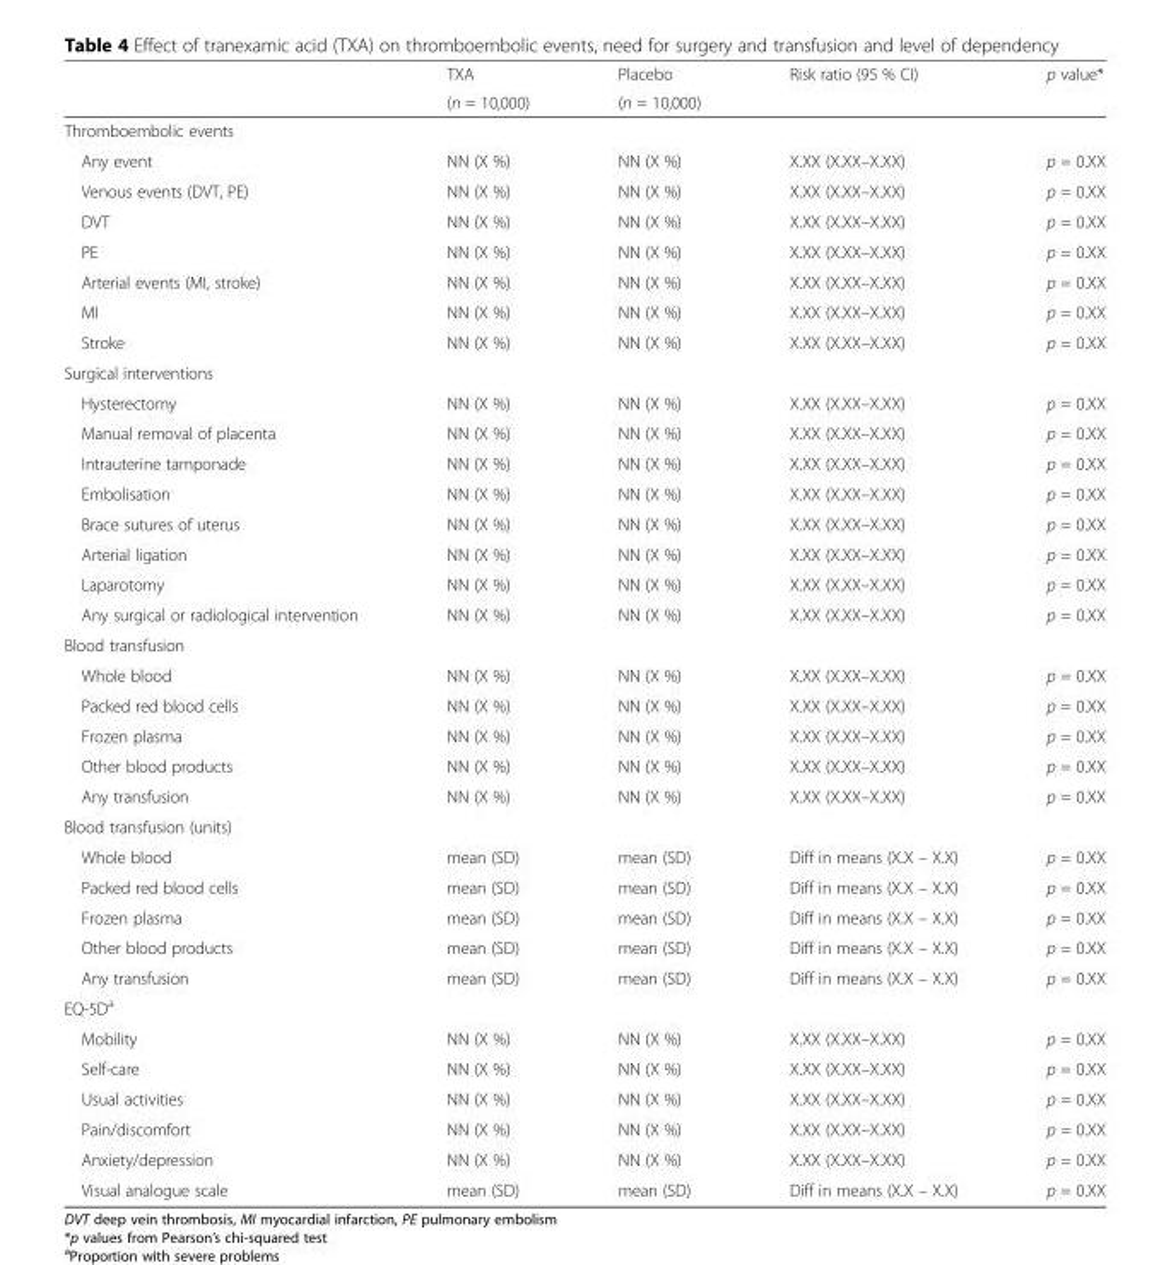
<table><thead><tr><td rowspan="2"></td><td rowspan="2">TXA (n = 10,000)</td><td rowspan="2">Placebo (n = 10,000)</td><td rowspan="2">Risk ratio (95 % CI)</td><td rowspan="2">p value*</td></tr><tr></tr></thead><tbody><tr><td colspan="5">Thromboembolic events</td></tr><tr><td>Any event</td><td>NN (X %)</td><td>NN (X %)</td><td>X.XX (X.XX–X.XX)</td><td>p = 0.XX</td></tr><tr><td>Venous events (DVT, PE)</td><td>NN (X %)</td><td>NN (X %)</td><td>X.XX (X.XX–X.XX)</td><td>p = 0.XX</td></tr><tr><td>DVT</td><td>NN (X %)</td><td>NN (X %)</td><td>X.XX (X.XX–X.XX)</td><td>p = 0.XX</td></tr><tr><td>PE</td><td>NN (X %)</td><td>NN (X %)</td><td>X.XX (X.XX–X.XX)</td><td>p = 0.XX</td></tr><tr><td>Arterial events (MI, stroke)</td><td>NN (X %)</td><td>NN (X %)</td><td>X.XX (X.XX–X.XX)</td><td>p = 0.XX</td></tr><tr><td>MI</td><td>NN (X %)</td><td>NN (X %)</td><td>X.XX (X.XX–X.XX)</td><td>p = 0.XX</td></tr><tr><td>Stroke</td><td>NN (X %)</td><td>NN (X %)</td><td>X.XX (X.XX–X.XX)</td><td>p = 0.XX</td></tr><tr><td colspan="5">Surgical interventions</td></tr><tr><td>Hysterectomy</td><td>NN (X %)</td><td>NN (X %)</td><td>X.XX (X.XX–X.XX)</td><td>p = 0.XX</td></tr><tr><td>Manual removal of placenta</td><td>NN (X %)</td><td>NN (X %)</td><td>X.XX (X.XX–X.XX)</td><td>p = 0.XX</td></tr><tr><td>Intrauterine tamponade</td><td>NN (X %)</td><td>NN (X %)</td><td>X.XX (X.XX–X.XX)</td><td>p = 0.XX</td></tr><tr><td>Embolisation</td><td>NN (X %)</td><td>NN (X %)</td><td>X.XX (X.XX–X.XX)</td><td>p = 0.XX</td></tr><tr><td>Brace sutures of uterus</td><td>NN (X %)</td><td>NN (X %)</td><td>X.XX (X.XX–X.XX)</td><td>p = 0.XX</td></tr><tr><td>Arterial ligation</td><td>NN (X %)</td><td>NN (X %)</td><td>X.XX (X.XX–X.XX)</td><td>p = 0.XX</td></tr><tr><td>Laparotomy</td><td>NN (X %)</td><td>NN (X %)</td><td>X.XX (X.XX–X.XX)</td><td>p = 0.XX</td></tr><tr><td>Any surgical or radiological intervention</td><td>NN (X %)</td><td>NN (X %)</td><td>X.XX (X.XX–X.XX)</td><td>p = 0.XX</td></tr><tr><td colspan="5">Blood transfusion</td></tr><tr><td>Whole blood</td><td>NN (X %)</td><td>NN (X %)</td><td>X.XX (X.XX–X.XX)</td><td>p = 0.XX</td></tr><tr><td>Packed red blood cells</td><td>NN (X %)</td><td>NN (X %)</td><td>X.XX (X.XX–X.XX)</td><td>p = 0.XX</td></tr><tr><td>Frozen plasma</td><td>NN (X %)</td><td>NN (X %)</td><td>X.XX (X.XX–X.XX)</td><td>p = 0.XX</td></tr><tr><td>Other blood products</td><td>NN (X %)</td><td>NN (X %)</td><td>X.XX (X.XX–X.XX)</td><td>p = 0.XX</td></tr><tr><td>Any transfusion</td><td>NN (X %)</td><td>NN (X %)</td><td>X.XX (X.XX–X.XX)</td><td>p = 0.XX</td></tr><tr><td colspan="5">Blood transfusion (units)</td></tr><tr><td>Whole blood</td><td>mean (SD)</td><td>mean (SD)</td><td>Diff in means (X.X – X.X)</td><td>p = 0.XX</td></tr><tr><td>Packed red blood cells</td><td>mean (SD)</td><td>mean (SD)</td><td>Diff in means (X.X – X.X)</td><td>p = 0.XX</td></tr><tr><td>Frozen plasma</td><td>mean (SD)</td><td>mean (SD)</td><td>Diff in means (X.X – X.X)</td><td>p = 0.XX</td></tr><tr><td>Other blood products</td><td>mean (SD)</td><td>mean (SD)</td><td>Diff in means (X.X – X.X)</td><td>p = 0.XX</td></tr><tr><td>Any transfusion</td><td>mean (SD)</td><td>mean (SD)</td><td>Diff in means (X.X – X.X)</td><td>p = 0.XX</td></tr><tr><td colspan="5">EQ-5D<sup>a</sup></td></tr><tr><td>Mobility</td><td>NN (X %)</td><td>NN (X %)</td><td>X.XX (X.XX–X.XX)</td><td>p = 0.XX</td></tr><tr><td>Self-care</td><td>NN (X %)</td><td>NN (X %)</td><td>X.XX (X.XX–X.XX)</td><td>p = 0.XX</td></tr><tr><td>Usual activities</td><td>NN (X %)</td><td>NN (X %)</td><td>X.XX (X.XX–X.XX)</td><td>p = 0.XX</td></tr><tr><td>Pain/discomfort</td><td>NN (X %)</td><td>NN (X %)</td><td>X.XX (X.XX–X.XX)</td><td>p = 0.XX</td></tr><tr><td>Anxiety/depression</td><td>NN (X %)</td><td>NN (X %)</td><td>X.XX (X.XX–X.XX)</td><td>p = 0.XX</td></tr><tr><td>Visual analogue scale</td><td>mean (SD)</td><td>mean (SD)</td><td>Diff in means (X.X – X.X)</td><td>p = 0.XX</td></tr></tbody></table>